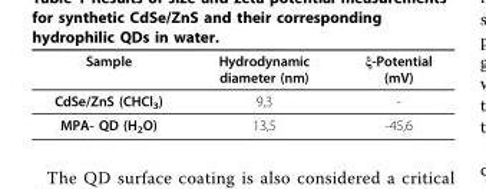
<table><thead><tr><td>Sample</td><td>Hydrodynamic diameter (nm)</td><td>ξ-Potential (mV)</td></tr></thead><tbody><tr><td>CdSe/ZnS (CHCl<sub>3</sub>)</td><td>9,3</td><td>-</td></tr><tr><td>MPA- QD (H<sub>2</sub>O)</td><td>13,5</td><td>-45,6</td></tr></tbody></table>